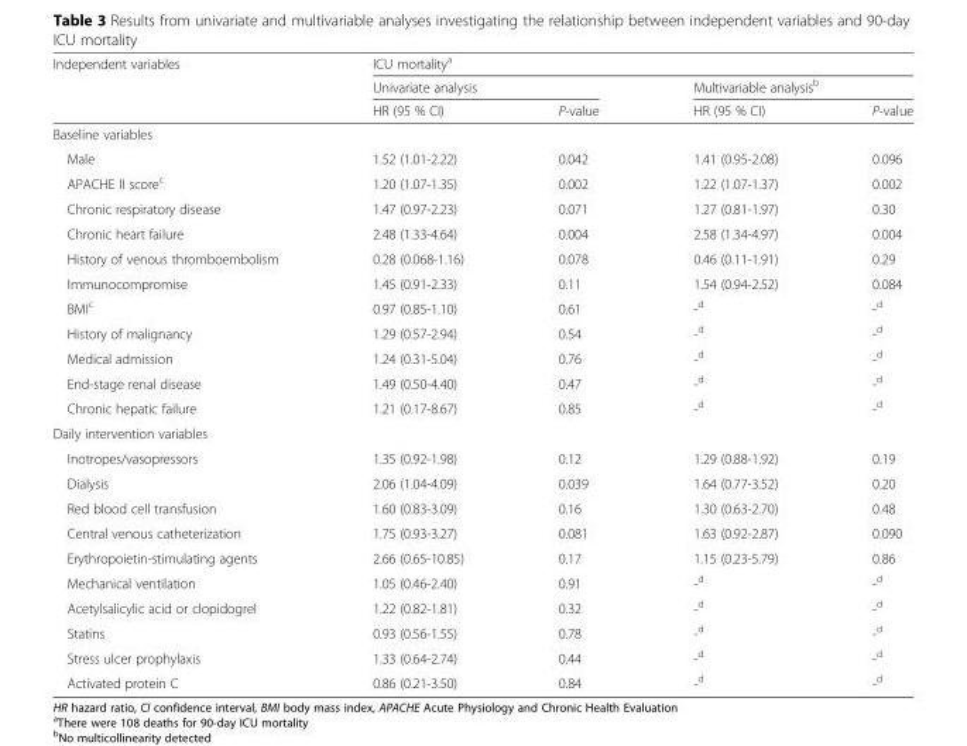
<table><thead><tr><td rowspan="3">Independent variables</td><td colspan="4">ICU mortality<sup>a</sup></td></tr><tr><td colspan="2">Univariate analysis</td><td colspan="2">Multivariable analysis<sup>b</sup></td></tr><tr><td>HR (95 % CI)</td><td>P-value</td><td>HR (95 % CI)</td><td>P-value</td></tr></thead><tbody><tr><td colspan="5">Baseline variables</td></tr><tr><td>Male</td><td>1.52 (1.01-2.22)</td><td>0.042</td><td>1.41 (0.95-2.08)</td><td>0.096</td></tr><tr><td>APACHE II score<sup>c</sup></td><td>1.20 (1.07-1.35)</td><td>0.002</td><td>1.22 (1.07-1.37)</td><td>0.002</td></tr><tr><td>Chronic respiratory disease</td><td>1.47 (0.97-2.23)</td><td>0.071</td><td>1.27 (0.81-1.97)</td><td>0.30</td></tr><tr><td>Chronic heart failure</td><td>2.48 (1.33-4.64)</td><td>0.004</td><td>2.58 (1.34-4.97)</td><td>0.004</td></tr><tr><td>History of venous thromboembolism</td><td>0.28 (0.068-1.16)</td><td>0.078</td><td>0.46 (0.11-1.91)</td><td>0.29</td></tr><tr><td>Immunocompromise</td><td>1.45 (0.91-2.33)</td><td>0.11</td><td>1.54 (0.94-2.52)</td><td>0.084</td></tr><tr><td>BMI<sup>c</sup></td><td>0.97 (0.85-1.10)</td><td>0.61</td><td>-<sup>d</sup></td><td>-<sup>d</sup></td></tr><tr><td>History of malignancy</td><td>1.29 (0.57-2.94)</td><td>0.54</td><td>-<sup>d</sup></td><td>-<sup>d</sup></td></tr><tr><td>Medical admission</td><td>1.24 (0.31-5.04)</td><td>0.76</td><td>-<sup>d</sup></td><td>-<sup>d</sup></td></tr><tr><td>End-stage renal disease</td><td>1.49 (0.50-4.40)</td><td>0.47</td><td>-<sup>d</sup></td><td>-<sup>d</sup></td></tr><tr><td>Chronic hepatic failure</td><td>1.21 (0.17-8.67)</td><td>0.85</td><td>-<sup>d</sup></td><td>-<sup>d</sup></td></tr><tr><td colspan="5">Daily intervention variables</td></tr><tr><td>Inotropes/vasopressors</td><td>1.35 (0.92-1.98)</td><td>0.12</td><td>1.29 (0.88-1.92)</td><td>0.19</td></tr><tr><td>Dialysis</td><td>2.06 (1.04-4.09)</td><td>0.039</td><td>1.64 (0.77-3.52)</td><td>0.20</td></tr><tr><td>Red blood cell transfusion</td><td>1.60 (0.83-3.09)</td><td>0.16</td><td>1.30 (0.63-2.70)</td><td>0.48</td></tr><tr><td>Central venous catheterization</td><td>1.75 (0.93-3.27)</td><td>0.081</td><td>1.63 (0.92-2.87)</td><td>0.090</td></tr><tr><td>Erythropoietin-stimulating agents</td><td>2.66 (0.65-10.85)</td><td>0.17</td><td>1.15 (0.23-5.79)</td><td>0.86</td></tr><tr><td>Mechanical ventilation</td><td>1.05 (0.46-2.40)</td><td>0.91</td><td>-<sup>d</sup></td><td>-<sup>d</sup></td></tr><tr><td>Acetylsalicylic acid or clopidogrel</td><td>1.22 (0.82-1.81)</td><td>0.32</td><td>-<sup>d</sup></td><td>-<sup>d</sup></td></tr><tr><td>Statins</td><td>0.93 (0.56-1.55)</td><td>0.78</td><td>-<sup>d</sup></td><td>-<sup>d</sup></td></tr><tr><td>Stress ulcer prophylaxis</td><td>1.33 (0.64-2.74)</td><td>0.44</td><td>-<sup>d</sup></td><td>-<sup>d</sup></td></tr><tr><td>Activated protein C</td><td>0.86 (0.21-3.50)</td><td>0.84</td><td>-<sup>d</sup></td><td>-<sup>d</sup></td></tr></tbody></table>